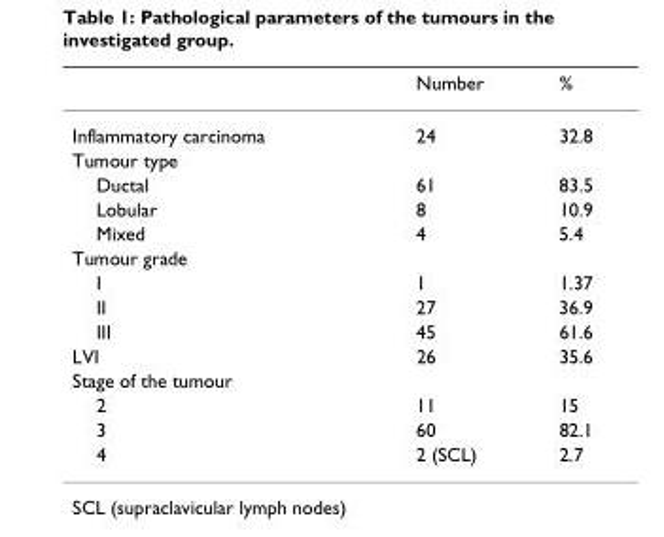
<table><thead><tr><td></td><td>Number</td><td>%</td></tr></thead><tbody><tr><td>Inflammatory carcinoma</td><td>24</td><td>32.8</td></tr><tr><td colspan="3">Tumour type</td></tr><tr><td>Ductal</td><td>61</td><td>83.5</td></tr><tr><td>Lobular</td><td>8</td><td>10.9</td></tr><tr><td>Mixed</td><td>4</td><td>5.4</td></tr><tr><td colspan="3">Tumour grade</td></tr><tr><td>I</td><td>1</td><td>1.37</td></tr><tr><td>II</td><td>27</td><td>36.9</td></tr><tr><td>III</td><td>45</td><td>61.6</td></tr><tr><td>LVI</td><td>26</td><td>35.6</td></tr><tr><td colspan="3">Stage of the tumour</td></tr><tr><td>2</td><td>11</td><td>15</td></tr><tr><td>3</td><td>60</td><td>82.1</td></tr><tr><td>4</td><td>2 (SCL)</td><td>2.7</td></tr></tbody></table>